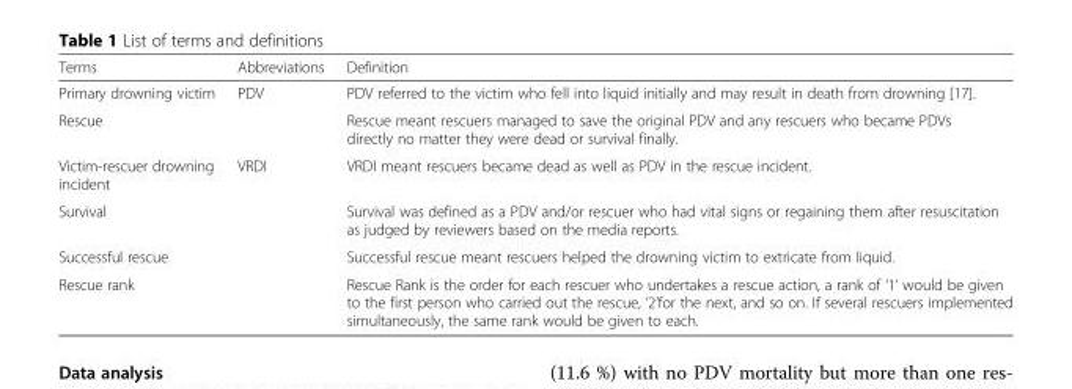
<table><thead><tr><td>Terms</td><td>Abbreviations</td><td>Definition</td></tr></thead><tbody><tr><td>Primary drowning victim</td><td>PDV</td><td>PDV referred to the victim who fell into liquid initially and may result in death from drowning [17].</td></tr><tr><td>Rescue</td><td></td><td>Rescue meant rescuers managed to save the original PDV and any rescuers who became PDVs directly no matter they were dead or survival finally.</td></tr><tr><td>Victim-rescuer drowning incident</td><td>VRDI</td><td>VRDI meant rescuers became dead as well as PDV in the rescue incident.</td></tr><tr><td>Survival</td><td></td><td>Survival was defined as a PDV and/or rescuer who had vital signs or regaining them after resuscitation as judged by reviewers based on the media reports.</td></tr><tr><td>Successful rescue</td><td></td><td>Successful rescue meant rescuers helped the drowning victim to extricate from liquid.</td></tr><tr><td>Rescue rank</td><td></td><td>Rescue Rank is the order for each rescuer who undertakes a rescue action, a rank of ‘1’ would be given to the first person who carried out the rescue, ‘2’for the next, and so on. If several rescuers implemented simultaneously, the same rank would be given to each.</td></tr></tbody></table>